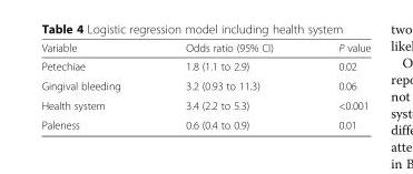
<table><thead><tr><td>Variable</td><td>Odds ratio (95% CI)</td><td>P value</td></tr></thead><tbody><tr><td>Petechiae</td><td>1.8 (1.1 to 2.9)</td><td>0.02</td></tr><tr><td>Gingival bleeding</td><td>3.2 (0.93 to 11.3)</td><td>0.06</td></tr><tr><td>Health system</td><td>3.4 (2.2 to 5.3)</td><td>&lt;0.001</td></tr><tr><td>Paleness</td><td>0.6 (0.4 to 0.9)</td><td>0.01</td></tr></tbody></table>